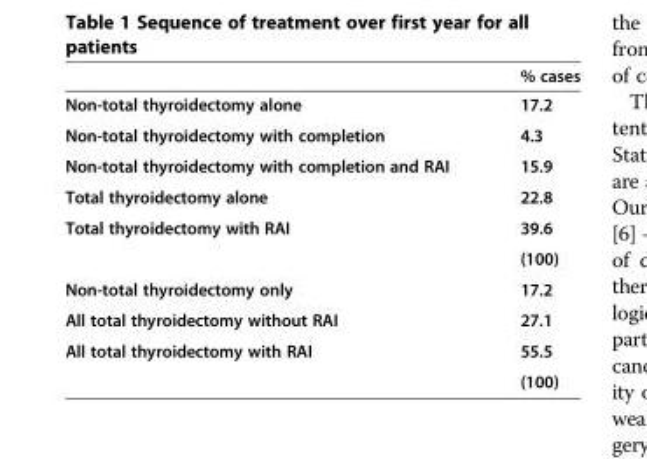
<table><thead><tr><td></td><td>% cases</td></tr></thead><tbody><tr><td>Non-total thyroidectomy alone</td><td>17.2</td></tr><tr><td>Non-total thyroidectomy with completion</td><td>4.3</td></tr><tr><td>Non-total thyroidectomy with completion and RAI</td><td>15.9</td></tr><tr><td>Total thyroidectomy alone</td><td>22.8</td></tr><tr><td rowspan="2">Total thyroidectomy with RAI</td><td>39.6</td></tr><tr><td>(100)</td></tr><tr><td>Non-total thyroidectomy only</td><td>17.2</td></tr><tr><td>All total thyroidectomy without RAI</td><td>27.1</td></tr><tr><td rowspan="2">All total thyroidectomy with RAI</td><td>55.5</td></tr><tr><td>(100)</td></tr></tbody></table>